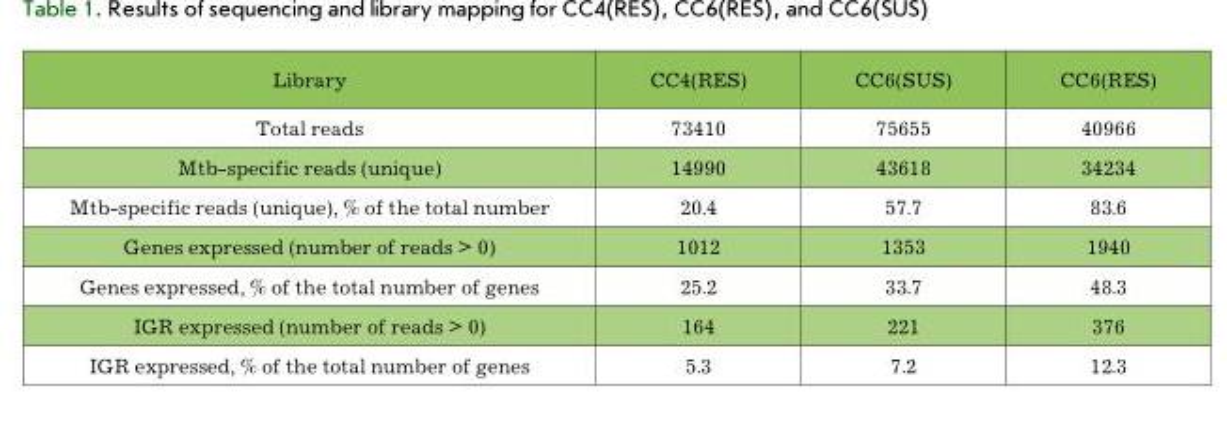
<table><thead><tr><td>Library</td><td>cc4(reS)</td><td>cc6(SuS)</td><td>cc6(reS)</td></tr></thead><tbody><tr><td>total reads</td><td>73410</td><td>75655</td><td>40966</td></tr><tr><td>Mtb-specific reads (unique)</td><td>14990</td><td>43618</td><td>34234</td></tr><tr><td>Mtb-specific reads (unique), % of the total number</td><td>20.4</td><td>57.7</td><td>83.6</td></tr><tr><td>Genes expressed (number of reads &gt; 0)</td><td>1012</td><td>1353</td><td>1940</td></tr><tr><td>Genes expressed, % of the total number of genes</td><td>25.2</td><td>33.7</td><td>48.3</td></tr><tr><td>IGr expressed (number of reads &gt; 0)</td><td>164</td><td>221</td><td>376</td></tr><tr><td>IGr expressed, % of the total number of genes</td><td>5.3</td><td>7.2</td><td>12.3</td></tr></tbody></table>